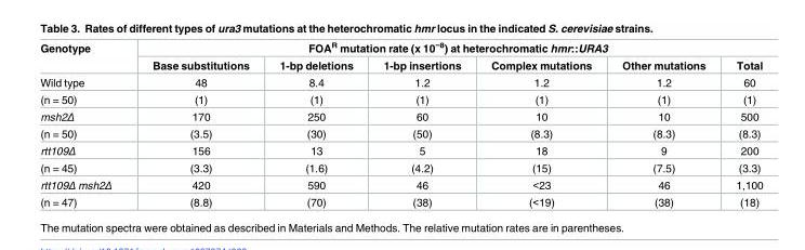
<table><thead><tr><td rowspan="2">Genotype</td><td colspan="6">FOA<sup>R</sup> mutation rate (x 10<sup>−8</sup>) at heterochromatic hmr::URA3</td></tr><tr><td>Base substitutions</td><td>1-bp deletions</td><td>1-bp insertions</td><td>Complex mutations</td><td>Other mutations</td><td>Total</td></tr></thead><tbody><tr><td>Wild type</td><td>48</td><td>8.4</td><td>1.2</td><td>1.2</td><td>1.2</td><td>60</td></tr><tr><td>(n = 50)</td><td>(1)</td><td>(1)</td><td>(1)</td><td>(1)</td><td>(1)</td><td>(1)</td></tr><tr><td>msh2Δ</td><td>170</td><td>250</td><td>60</td><td>10</td><td>10</td><td>500</td></tr><tr><td>(n = 50)</td><td>(3.5)</td><td>(30)</td><td>(50)</td><td>(8.3)</td><td>(8.3)</td><td>(8.3)</td></tr><tr><td>rtt109Δ</td><td>156</td><td>13</td><td>5</td><td>18</td><td>9</td><td>200</td></tr><tr><td>(n = 45)</td><td>(3.3)</td><td>(1.6)</td><td>(4.2)</td><td>(15)</td><td>(7.5)</td><td>(3.3)</td></tr><tr><td>rtt109Δ msh2Δ</td><td>420</td><td>590</td><td>46</td><td>&lt;23</td><td>46</td><td>1,100</td></tr><tr><td>(n = 47)</td><td>(8.8)</td><td>(70)</td><td>(38)</td><td>(&lt;19)</td><td>(38)</td><td>(18)</td></tr></tbody></table>